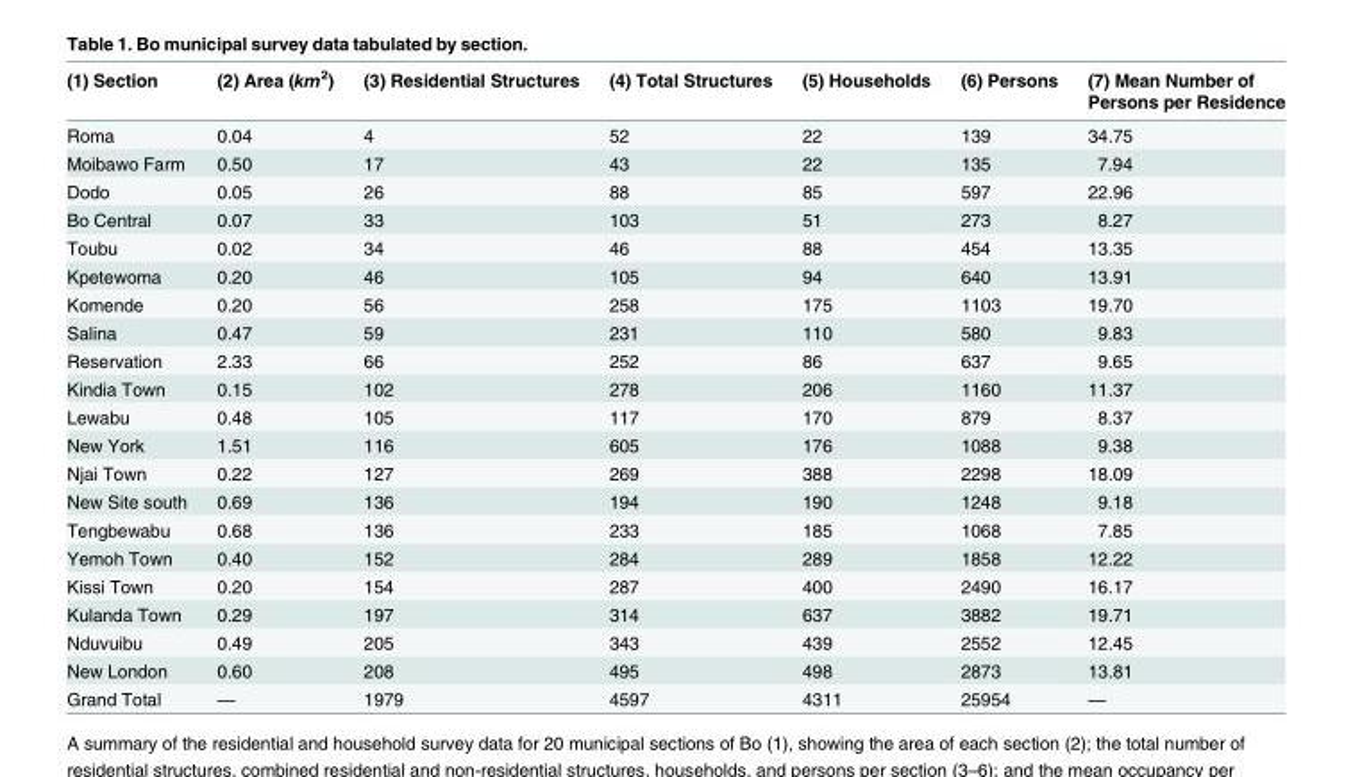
<table><thead><tr><td>(1) Section</td><td>(2) Area (km<sup>2</sup>)</td><td>(3) Residential Structures</td><td>(4) Total Structures</td><td>(5) Households</td><td>(6) Persons</td><td>(7) Mean Number of Persons per Residence</td></tr></thead><tbody><tr><td>Roma</td><td>0.04</td><td>4</td><td>52</td><td>22</td><td>139</td><td>34.75</td></tr><tr><td>Moibawo Farm</td><td>0.50</td><td>17</td><td>43</td><td>22</td><td>135</td><td>7.94</td></tr><tr><td>Dodo</td><td>0.05</td><td>26</td><td>88</td><td>85</td><td>597</td><td>22.96</td></tr><tr><td>Bo Central</td><td>0.07</td><td>33</td><td>103</td><td>51</td><td>273</td><td>8.27</td></tr><tr><td>Toubu</td><td>0.02</td><td>34</td><td>46</td><td>88</td><td>454</td><td>13.35</td></tr><tr><td>Kpetewoma</td><td>0.20</td><td>46</td><td>105</td><td>94</td><td>640</td><td>13.91</td></tr><tr><td>Komende</td><td>0.20</td><td>56</td><td>258</td><td>175</td><td>1103</td><td>19.70</td></tr><tr><td>Salina</td><td>0.47</td><td>59</td><td>231</td><td>110</td><td>580</td><td>9.83</td></tr><tr><td>Reservation</td><td>2.33</td><td>66</td><td>252</td><td>86</td><td>637</td><td>9.65</td></tr><tr><td>Kindia Town</td><td>0.15</td><td>102</td><td>278</td><td>206</td><td>1160</td><td>11.37</td></tr><tr><td>Lewabu</td><td>0.48</td><td>105</td><td>117</td><td>170</td><td>879</td><td>8.37</td></tr><tr><td>New York</td><td>1.51</td><td>116</td><td>605</td><td>176</td><td>1088</td><td>9.38</td></tr><tr><td>Njai Town</td><td>0.22</td><td>127</td><td>269</td><td>388</td><td>2298</td><td>18.09</td></tr><tr><td>New Site south</td><td>0.69</td><td>136</td><td>194</td><td>190</td><td>1248</td><td>9.18</td></tr><tr><td>Tengbewabu</td><td>0.68</td><td>136</td><td>233</td><td>185</td><td>1068</td><td>7.85</td></tr><tr><td>Yemoh Town</td><td>0.40</td><td>152</td><td>284</td><td>289</td><td>1858</td><td>12.22</td></tr><tr><td>Kissi Town</td><td>0.20</td><td>154</td><td>287</td><td>400</td><td>2490</td><td>16.17</td></tr><tr><td>Kulanda Town</td><td>0.29</td><td>197</td><td>314</td><td>637</td><td>3882</td><td>19.71</td></tr><tr><td>Nduvuibu</td><td>0.49</td><td>205</td><td>343</td><td>439</td><td>2552</td><td>12.45</td></tr><tr><td>New London</td><td>0.60</td><td>208</td><td>495</td><td>498</td><td>2873</td><td>13.81</td></tr><tr><td>Grand Total</td><td>—</td><td>1979</td><td>4597</td><td>4311</td><td>25954</td><td>—</td></tr></tbody></table>